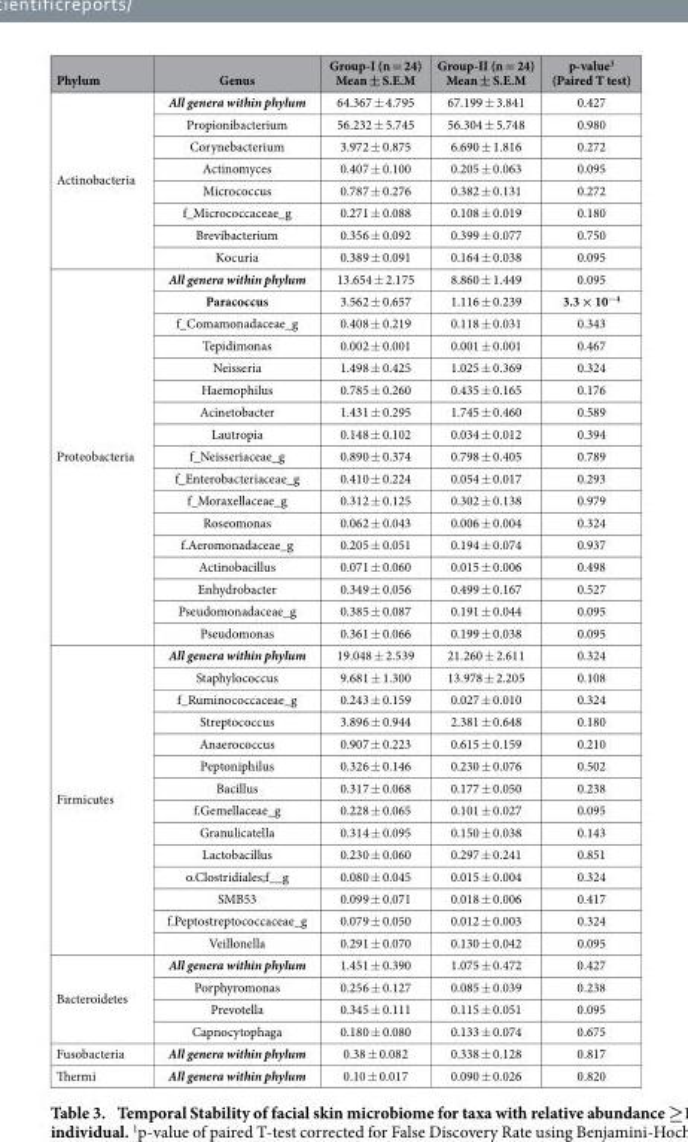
<table><thead><tr><td>Phylum</td><td>Genus</td><td>Group-I (n = 24) Mean ± S.E.M</td><td>Group-II (n = 24) Mean ± S.E.M</td><td>p-value<sup>1</sup> (Paired T test)</td></tr></thead><tbody><tr><td rowspan="8">Actinobacteria</td><td>All genera within phylum</td><td>64.367 ± 4.795</td><td>67.199 ± 3.841</td><td>0.427</td></tr><tr><td>Propionibacterium</td><td>56.232 ± 5.745</td><td>56.304 ± 5.748</td><td>0.980</td></tr><tr><td>Corynebacterium</td><td>3.972 ± 0.875</td><td>6.690 ± 1.816</td><td>0.272</td></tr><tr><td>Actinomyces</td><td>0.407 ± 0.100</td><td>0.205 ± 0.063</td><td>0.095</td></tr><tr><td>Micrococcus</td><td>0.787 ± 0.276</td><td>0.382 ± 0.131</td><td>0.272</td></tr><tr><td>f_Micrococcaceae_g</td><td>0.271 ± 0.088</td><td>0.108 ± 0.019</td><td>0.180</td></tr><tr><td>Brevibacterium</td><td>0.356 ± 0.092</td><td>0.399 ± 0.077</td><td>0.750</td></tr><tr><td>Kocuria</td><td>0.389 ± 0.091</td><td>0.164 ± 0.038</td><td>0.095</td></tr><tr><td rowspan="17">Proteobacteria</td><td>All genera within phylum</td><td>13.654 ± 2.175</td><td>8.860 ± 1.449</td><td>0.095</td></tr><tr><td>Paracoccus</td><td>3.562 ± 0.657</td><td>1.116 ± 0.239</td><td>3.3 × 10−4</td></tr><tr><td>f_Comamonadaceae_g</td><td>0.408 ± 0.219</td><td>0.118 ± 0.031</td><td>0.343</td></tr><tr><td>Tepidimonas</td><td>0.002 ± 0.001</td><td>0.001 ± 0.001</td><td>0.467</td></tr><tr><td>Neisseria</td><td>1.498 ± 0.425</td><td>1.025 ± 0.369</td><td>0.324</td></tr><tr><td>Haemophilus</td><td>0.785 ± 0.260</td><td>0.435 ± 0.165</td><td>0.176</td></tr><tr><td>Acinetobacter</td><td>1.431 ± 0.295</td><td>1.745 ± 0.460</td><td>0.589</td></tr><tr><td>Lautropia</td><td>0.148 ± 0.102</td><td>0.034 ± 0.012</td><td>0.394</td></tr><tr><td>f_Neisseriaceae_g</td><td>0.890 ± 0.374</td><td>0.798 ± 0.405</td><td>0.789</td></tr><tr><td>f_Enterobacteriaceae_g</td><td>0.410 ± 0.224</td><td>0.054 ± 0.017</td><td>0.293</td></tr><tr><td>f_Moraxellaceae_g</td><td>0.312 ± 0.125</td><td>0.302 ± 0.138</td><td>0.979</td></tr><tr><td>Roseomonas</td><td>0.062 ± 0.043</td><td>0.006 ± 0.004</td><td>0.324</td></tr><tr><td>f.Aeromonadaceae_g</td><td>0.205 ± 0.051</td><td>0.194 ± 0.074</td><td>0.937</td></tr><tr><td>Actinobacillus</td><td>0.071 ± 0.060</td><td>0.015 ± 0.006</td><td>0.498</td></tr><tr><td>Enhydrobacter</td><td>0.349 ± 0.056</td><td>0.499 ± 0.167</td><td>0.527</td></tr><tr><td>Pseudomonadaceae_g</td><td>0.385 ± 0.087</td><td>0.191 ± 0.044</td><td>0.095</td></tr><tr><td>Pseudomonas</td><td>0.361 ± 0.066</td><td>0.199 ± 0.038</td><td>0.095</td></tr><tr><td rowspan="14">Firmicutes</td><td>All genera within phylum</td><td>19.048 ± 2.539</td><td>21.260 ± 2.611</td><td>0.324</td></tr><tr><td>Staphylococcus</td><td>9.681 ± 1.300</td><td>13.978 ± 2.205</td><td>0.108</td></tr><tr><td>f_Ruminococcaceae_g</td><td>0.243 ± 0.159</td><td>0.027 ± 0.010</td><td>0.324</td></tr><tr><td>Streptococcus</td><td>3.896 ± 0.944</td><td>2.381 ± 0.648</td><td>0.180</td></tr><tr><td>Anaerococcus</td><td>0.907 ± 0.223</td><td>0.615 ± 0.159</td><td>0.210</td></tr><tr><td>Peptoniphilus</td><td>0.326 ± 0.146</td><td>0.230 ± 0.076</td><td>0.502</td></tr><tr><td>Bacillus</td><td>0.317 ± 0.068</td><td>0.177 ± 0.050</td><td>0.238</td></tr><tr><td>f.Gemellaceae_g</td><td>0.228 ± 0.065</td><td>0.101 ± 0.027</td><td>0.095</td></tr><tr><td>Granulicatella</td><td>0.314 ± 0.095</td><td>0.150 ± 0.038</td><td>0.143</td></tr><tr><td>Lactobacillus</td><td>0.230 ± 0.060</td><td>0.297 ± 0.241</td><td>0.851</td></tr><tr><td>o.Clostridiales;f__g</td><td>0.080 ± 0.045</td><td>0.015 ± 0.004</td><td>0.324</td></tr><tr><td>SMB53</td><td>0.099 ± 0.071</td><td>0.018 ± 0.006</td><td>0.417</td></tr><tr><td>f.Peptostreptococcaceae_g</td><td>0.079 ± 0.050</td><td>0.012 ± 0.003</td><td>0.324</td></tr><tr><td>Veillonella</td><td>0.291 ± 0.070</td><td>0.130 ± 0.042</td><td>0.095</td></tr><tr><td rowspan="4">Bacteroidetes</td><td>All genera within phylum</td><td>1.451 ± 0.390</td><td>1.075 ± 0.472</td><td>0.427</td></tr><tr><td>Porphyromonas</td><td>0.256 ± 0.127</td><td>0.085 ± 0.039</td><td>0.238</td></tr><tr><td>Prevotella</td><td>0.345 ± 0.111</td><td>0.115 ± 0.051</td><td>0.095</td></tr><tr><td>Capnocytophaga</td><td>0.180 ± 0.080</td><td>0.133 ± 0.074</td><td>0.675</td></tr><tr><td>Fusobacteria</td><td>All genera within phylum</td><td>0.38 ± 0.082</td><td>0.338 ± 0.128</td><td>0.817</td></tr><tr><td>Thermi</td><td>All genera within phylum</td><td>0.10 ± 0.017</td><td>0.090 ± 0.026</td><td>0.820</td></tr></tbody></table>